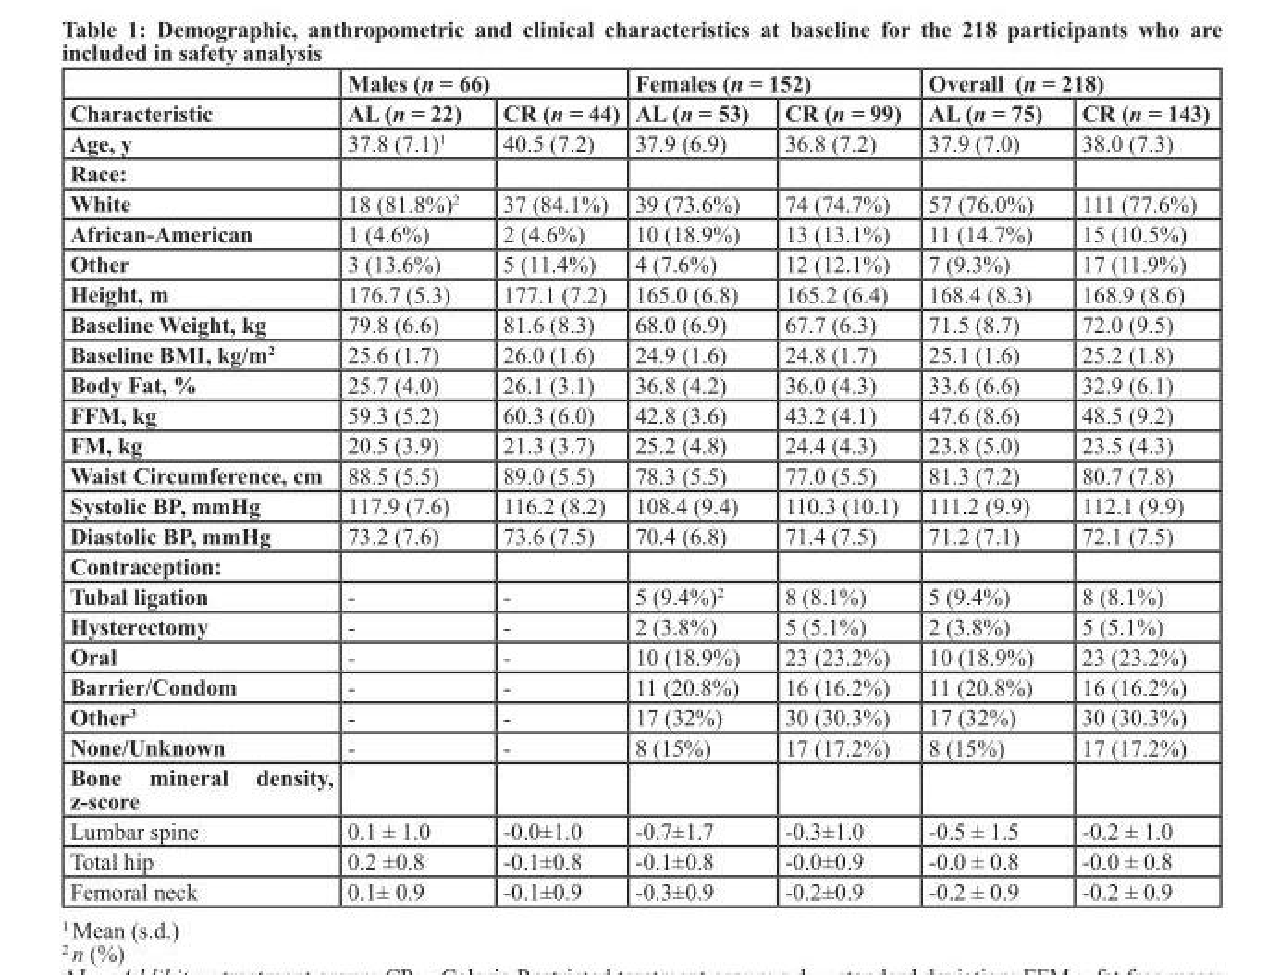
<table><thead><tr><td rowspan="2">Characteristic</td><td colspan="2">Males (n = 66)</td><td colspan="2">Females (n = 152)</td><td colspan="2">Overall (n = 218)</td></tr><tr><td>AL (n = 22)</td><td>CR (n = 44)</td><td>AL (n = 53)</td><td>CR (n = 99)</td><td>AL (n = 75)</td><td>CR (n = 143)</td></tr></thead><tbody><tr><td>Age, y</td><td>37.8 (7.1)<sup>1</sup></td><td>40.5 (7.2)</td><td>37.9 (6.9)</td><td>36.8 (7.2)</td><td>37.9 (7.0)</td><td>38.0 (7.3)</td></tr><tr><td colspan="7">Race:</td></tr><tr><td>White</td><td>18 (81.8%)<sup>2</sup></td><td>37 (84.1%)</td><td>39 (73.6%)</td><td>74 (74.7%)</td><td>57 (76.0%)</td><td>111 (77.6%)</td></tr><tr><td>African-American</td><td>1 (4.6%)</td><td>2 (4.6%)</td><td>10 (18.9%)</td><td>13 (13.1%)</td><td>11 (14.7%)</td><td>15 (10.5%)</td></tr><tr><td>Other</td><td>3 (13.6%)</td><td>5 (11.4%)</td><td>4 (7.6%)</td><td>12 (12.1%)</td><td>7 (9.3%)</td><td>17 (11.9%)</td></tr><tr><td>Height, m</td><td>176.7 (5.3)</td><td>177.1 (7.2)</td><td>165.0 (6.8)</td><td>165.2 (6.4)</td><td>168.4 (8.3)</td><td>168.9 (8.6)</td></tr><tr><td>Baseline Weight, kg</td><td>79.8 (6.6)</td><td>81.6 (8.3)</td><td>68.0 (6.9)</td><td>67.7 (6.3)</td><td>71.5 (8.7)</td><td>72.0 (9.5)</td></tr><tr><td>Baseline BMI, kg/m<sup>2</sup></td><td>25.6 (1.7)</td><td>26.0 (1.6)</td><td>24.9 (1.6)</td><td>24.8 (1.7)</td><td>25.1 (1.6)</td><td>25.2 (1.8)</td></tr><tr><td>Body Fat, %</td><td>25.7 (4.0)</td><td>26.1 (3.1)</td><td>36.8 (4.2)</td><td>36.0 (4.3)</td><td>33.6 (6.6)</td><td>32.9 (6.1)</td></tr><tr><td>FFM, kg</td><td>59.3 (5.2)</td><td>60.3 (6.0)</td><td>42.8 (3.6)</td><td>43.2 (4.1)</td><td>47.6 (8.6)</td><td>48.5 (9.2)</td></tr><tr><td>FM, kg</td><td>20.5 (3.9)</td><td>21.3 (3.7)</td><td>25.2 (4.8)</td><td>24.4 (4.3)</td><td>23.8 (5.0)</td><td>23.5 (4.3)</td></tr><tr><td>Waist Circumference, cm</td><td>88.5 (5.5)</td><td>89.0 (5.5)</td><td>78.3 (5.5)</td><td>77.0 (5.5)</td><td>81.3 (7.2)</td><td>80.7 (7.8)</td></tr><tr><td>Systolic BP, mmHg</td><td>117.9 (7.6)</td><td>116.2 (8.2)</td><td>108.4 (9.4)</td><td>110.3 (10.1)</td><td>111.2 (9.9)</td><td>112.1 (9.9)</td></tr><tr><td>Diastolic BP, mmHg</td><td>73.2 (7.6)</td><td>73.6 (7.5)</td><td>70.4 (6.8)</td><td>71.4 (7.5)</td><td>71.2 (7.1)</td><td>72.1 (7.5)</td></tr><tr><td colspan="7">Contraception:</td></tr><tr><td>Tubal ligation</td><td>-</td><td>-</td><td>5 (9.4%)<sup>2</sup></td><td>8 (8.1%)</td><td>5 (9.4%)</td><td>8 (8.1%)</td></tr><tr><td>Hysterectomy</td><td>-</td><td>-</td><td>2 (3.8%)</td><td>5 (5.1%)</td><td>2 (3.8%)</td><td>5 (5.1%)</td></tr><tr><td>Oral</td><td>-</td><td>-</td><td>10 (18.9%)</td><td>23 (23.2%)</td><td>10 (18.9%)</td><td>23 (23.2%)</td></tr><tr><td>Barrier/Condom</td><td>-</td><td>-</td><td>11 (20.8%)</td><td>16 (16.2%)</td><td>11 (20.8%)</td><td>16 (16.2%)</td></tr><tr><td>Other<sup>3</sup></td><td>-</td><td>-</td><td>17 (32%)</td><td>30 (30.3%)</td><td>17 (32%)</td><td>30 (30.3%)</td></tr><tr><td>None/Unknown</td><td>-</td><td>-</td><td>8 (15%)</td><td>17 (17.2%)</td><td>8 (15%)</td><td>17 (17.2%)</td></tr><tr><td colspan="7">Bone mineral density, z-score</td></tr><tr><td>Lumbar spine</td><td>0.1 ± 1.0</td><td>-0.0±1.0</td><td>-0.7±1.7</td><td>-0.3±1.0</td><td>-0.5 ± 1.5</td><td>-0.2 ± 1.0</td></tr><tr><td>Total hip</td><td>0.2 ±0.8</td><td>-0.1±0.8</td><td>-0.1±0.8</td><td>-0.0±0.9</td><td>-0.0 ± 0.8</td><td>-0.0 ± 0.8</td></tr><tr><td>Femoral neck</td><td>0.1± 0.9</td><td>-0.1±0.9</td><td>-0.3±0.9</td><td>-0.2±0.9</td><td>-0.2 ± 0.9</td><td>-0.2 ± 0.9</td></tr></tbody></table>